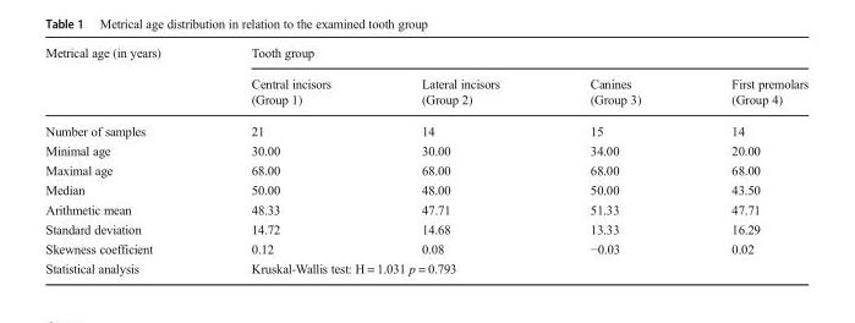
<table><thead><tr><td rowspan="2">Metrical age (in years)</td><td colspan="4">Tooth group</td></tr><tr><td>Central incisors (Group 1)</td><td>Lateral incisors (Group 2)</td><td>Canines (Group 3)</td><td>First premolars (Group 4)</td></tr></thead><tbody><tr><td>Number of samples</td><td>21</td><td>14</td><td>15</td><td>14</td></tr><tr><td>Minimal age</td><td>30.00</td><td>30.00</td><td>34.00</td><td>20.00</td></tr><tr><td>Maximal age</td><td>68.00</td><td>68.00</td><td>68.00</td><td>68.00</td></tr><tr><td>Median</td><td>50.00</td><td>48.00</td><td>50.00</td><td>43.50</td></tr><tr><td>Arithmetic mean</td><td>48.33</td><td>47.71</td><td>51.33</td><td>47.71</td></tr><tr><td>Standard deviation</td><td>14.72</td><td>14.68</td><td>13.33</td><td>16.29</td></tr><tr><td>Skewness coefficient</td><td>0.12</td><td>0.08</td><td>−0.03</td><td>0.02</td></tr><tr><td>Statistical analysis</td><td colspan="4">Kruskal-Wallis test: H = 1.031 p = 0.793</td></tr></tbody></table>